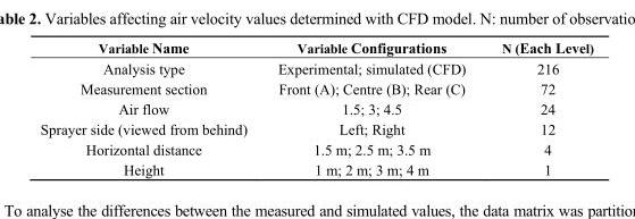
<table><thead><tr><td>Variable Name</td><td>Variable Configurations</td><td>N (Each Level)</td></tr></thead><tbody><tr><td>Analysis type</td><td>Experimental; simulated (CFD)</td><td>216</td></tr><tr><td>Measurement section</td><td>Front (A); Centre (B); Rear (C)</td><td>72</td></tr><tr><td>Air flow</td><td>1.5; 3; 4.5</td><td>24</td></tr><tr><td>Sprayer side (viewed from behind)</td><td>Left; Right</td><td>12</td></tr><tr><td>Horizontal distance</td><td>1.5 m; 2.5 m; 3.5 m</td><td>4</td></tr><tr><td>Height</td><td>1 m; 2 m; 3 m; 4 m</td><td>1</td></tr></tbody></table>